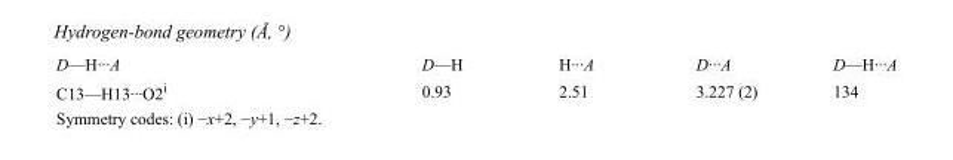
<table><tbody><tr><td>D—H···A</td><td>D—H</td><td>H···A</td><td>D···A</td><td>D—H···A</td></tr><tr><td>C13—H13···O2<sup>i</sup></td><td>0.93</td><td>2.51</td><td>3.227 (2)</td><td>134</td></tr></tbody></table>